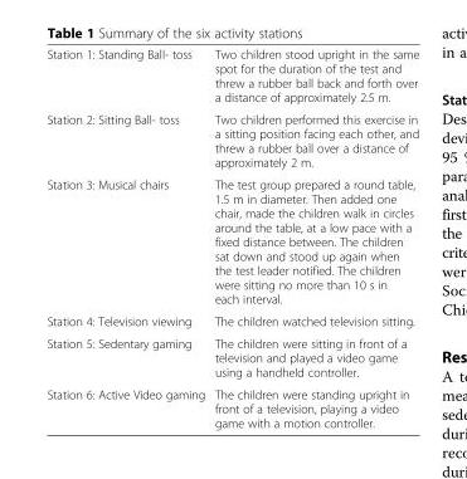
<table><tbody><tr><td>Station 1: Standing Ball- toss</td><td>Two children stood upright in the same spot for the duration of the test and threw a rubber ball back and forth over a distance of approximately 2.5 m.</td></tr><tr><td>Station 2: Sitting Ball- toss</td><td>Two children performed this exercise in a sitting position facing each other, and threw a rubber ball over a distance of approximately 2 m.</td></tr><tr><td>Station 3: Musical chairs</td><td>The test group prepared a round table, 1.5 m in diameter. Then added one chair, made the children walk in circles around the table, at a low pace with a fixed distance between. The children sat down and stood up again when the test leader notified. The children were sitting no more than 10 s in each interval.</td></tr><tr><td>Station 4: Television viewing</td><td>The children watched television sitting.</td></tr><tr><td>Station 5: Sedentary gaming</td><td>The children were sitting in front of a television and played a video game using a handheld controller.</td></tr><tr><td>Station 6: Active Video gaming</td><td>The children were standing upright in front of a television, playing a video game with a motion controller.</td></tr></tbody></table>